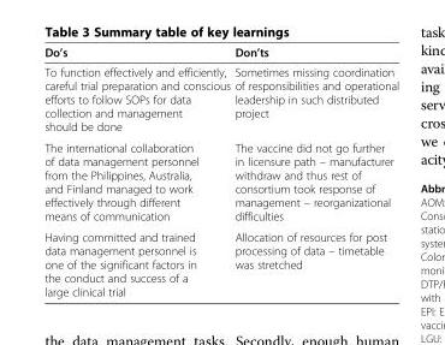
<table><thead><tr><td>Do’s</td><td>Don’ts</td></tr></thead><tbody><tr><td>To function effectively and efficiently, careful trial preparation and conscious efforts to follow SOPs for data collection and management should be done</td><td>Sometimes missing coordination of responsibilities and operational leadership in such distributed project</td></tr><tr><td>The international collaboration of data management personnel from the Philippines, Australia, and Finland managed to work effectively through different means of communication</td><td>The vaccine did not go further in licensure path – manufacturer withdraw and thus rest of consortium took response of management – reorganizational difficulties</td></tr><tr><td>Having committed and trained data management personnel is one of the significant factors in the conduct and success of a large clinical trial</td><td>Allocation of resources for post processing of data – timetable was stretched</td></tr></tbody></table>